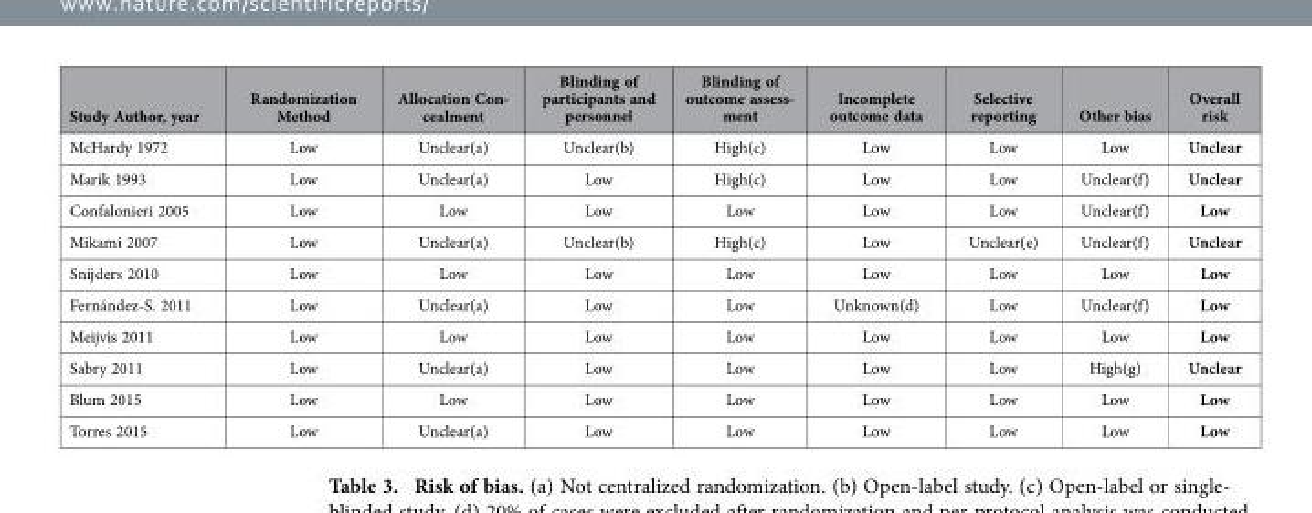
<table><thead><tr><td>Study Author, year</td><td>Randomization Method</td><td>Allocation Con- cealment</td><td>Blinding of participants and personnel</td><td>Blinding of outcome assess- ment</td><td>Incomplete outcome data</td><td>Selective reporting</td><td>Other bias</td><td>Overall risk</td></tr></thead><tbody><tr><td>McHardy 1972</td><td>Low</td><td>Unclear(a)</td><td>Unclear(b)</td><td>High(c)</td><td>Low</td><td>Low</td><td>Low</td><td>Unclear</td></tr><tr><td>Marik 1993</td><td>Low</td><td>Unclear(a)</td><td>Low</td><td>High(c)</td><td>Low</td><td>Low</td><td>Unclear(f)</td><td>Unclear</td></tr><tr><td>Confalonieri 2005</td><td>Low</td><td>Low</td><td>Low</td><td>Low</td><td>Low</td><td>Low</td><td>Unclear(f)</td><td>Low</td></tr><tr><td>Mikami 2007</td><td>Low</td><td>Unclear(a)</td><td>Unclear(b)</td><td>High(c)</td><td>Low</td><td>Unclear(e)</td><td>Unclear(f)</td><td>Unclear</td></tr><tr><td>Snijders 2010</td><td>Low</td><td>Low</td><td>Low</td><td>Low</td><td>Low</td><td>Low</td><td>Low</td><td>Low</td></tr><tr><td>Fernández-S. 2011</td><td>Low</td><td>Unclear(a)</td><td>Low</td><td>Low</td><td>Unknown(d)</td><td>Low</td><td>Unclear(f)</td><td>Low</td></tr><tr><td>Meijvis 2011</td><td>Low</td><td>Low</td><td>Low</td><td>Low</td><td>Low</td><td>Low</td><td>Low</td><td>Low</td></tr><tr><td>Sabry 2011</td><td>Low</td><td>Unclear(a)</td><td>Low</td><td>Low</td><td>Low</td><td>Low</td><td>High(g)</td><td>Unclear</td></tr><tr><td>Blum 2015</td><td>Low</td><td>Low</td><td>Low</td><td>Low</td><td>Low</td><td>Low</td><td>Low</td><td>Low</td></tr><tr><td>Torres 2015</td><td>Low</td><td>Unclear(a)</td><td>Low</td><td>Low</td><td>Low</td><td>Low</td><td>Low</td><td>Low</td></tr></tbody></table>